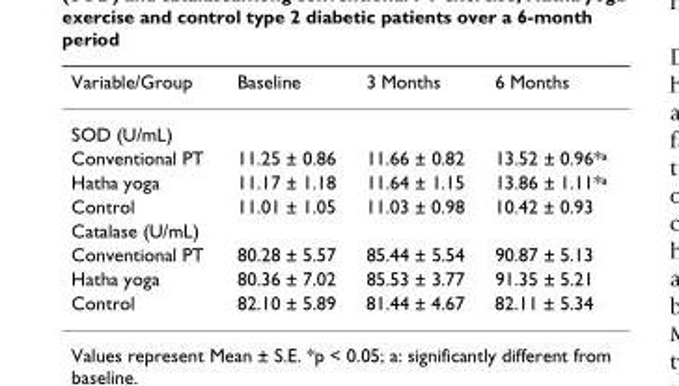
<table><thead><tr><td>Variable/Group</td><td>Baseline</td><td>3 Months</td><td>6 Months</td></tr></thead><tbody><tr><td colspan="4">SOD (U/mL)</td></tr><tr><td>Conventional PT</td><td>11.25 ± 0.86</td><td>11.66 ± 0.82</td><td>13.52 ± 0.96*<sup>a</sup></td></tr><tr><td>Hatha yoga</td><td>11.17 ± 1.18</td><td>11.64 ± 1.15</td><td>13.86 ± 1.11*<sup>a</sup></td></tr><tr><td>Control</td><td>11.01 ± 1.05</td><td>11.03 ± 0.98</td><td>10.42 ± 0.93</td></tr><tr><td colspan="4">Catalase (U/mL)</td></tr><tr><td>Conventional PT</td><td>80.28 ± 5.57</td><td>85.44 ± 5.54</td><td>90.87 ± 5.13</td></tr><tr><td>Hatha yoga</td><td>80.36 ± 7.02</td><td>85.53 ± 3.77</td><td>91.35 ± 5.21</td></tr><tr><td>Control</td><td>82.10 ± 5.89</td><td>81.44 ± 4.67</td><td>82.11 ± 5.34</td></tr></tbody></table>